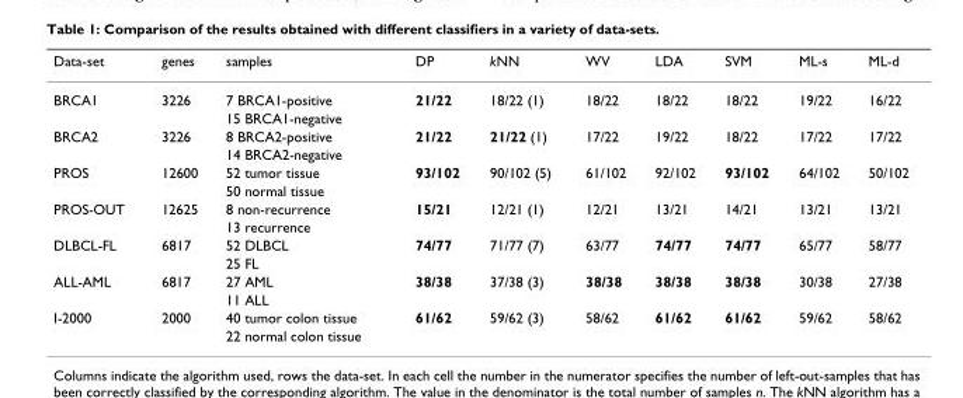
<table><thead><tr><td>Data-set</td><td>genes</td><td>samples</td><td>DP</td><td>kNN</td><td>WV</td><td>LDA</td><td>SVM</td><td>ML-s</td><td>ML-d</td></tr></thead><tbody><tr><td rowspan="2">BRCA1</td><td>3226</td><td>7 BRCA1-positive</td><td>21/22</td><td>18/22 (1)</td><td>18/22</td><td>18/22</td><td>18/22</td><td>19/22</td><td>16/22</td></tr><tr><td></td><td>15 BRCA1-negative</td><td></td><td></td><td></td><td></td><td></td><td></td><td></td></tr><tr><td rowspan="2">BRCA2</td><td>3226</td><td>8 BRCA2-positive</td><td>21/22</td><td>21/22 (1)</td><td>17/22</td><td>19/22</td><td>18/22</td><td>17/22</td><td>17/22</td></tr><tr><td></td><td>14 BRCA2-negative</td><td></td><td></td><td></td><td></td><td></td><td></td><td></td></tr><tr><td rowspan="2">PROS</td><td>12600</td><td>52 tumor tissue</td><td>93/102</td><td>90/102 (5)</td><td>61/102</td><td>92/102</td><td>93/102</td><td>64/102</td><td>50/102</td></tr><tr><td></td><td>50 normal tissue</td><td></td><td></td><td></td><td></td><td></td><td></td><td></td></tr><tr><td rowspan="2">PROS-OUT</td><td>12625</td><td>8 non-recurrence</td><td>15/21</td><td>12/21 (1)</td><td>12/21</td><td>13/21</td><td>14/21</td><td>13/21</td><td>13/21</td></tr><tr><td></td><td>13 recurrence</td><td></td><td></td><td></td><td></td><td></td><td></td><td></td></tr><tr><td rowspan="2">DLBCL-FL</td><td>6817</td><td>52 DLBCL</td><td>74/77</td><td>71/77 (7)</td><td>63/77</td><td>74/77</td><td>74/77</td><td>65/77</td><td>58/77</td></tr><tr><td></td><td>25 FL</td><td></td><td></td><td></td><td></td><td></td><td></td><td></td></tr><tr><td rowspan="2">ALL-AML</td><td>6817</td><td>27 AML</td><td>38/38</td><td>37/38 (3)</td><td>38/38</td><td>38/38</td><td>38/38</td><td>30/38</td><td>27/38</td></tr><tr><td></td><td>11 ALL</td><td></td><td></td><td></td><td></td><td></td><td></td><td></td></tr><tr><td rowspan="2">I-2000</td><td>2000</td><td>40 tumor colon tissue</td><td>61/62</td><td>59/62 (3)</td><td>58/62</td><td>61/62</td><td>61/62</td><td>59/62</td><td>58/62</td></tr><tr><td></td><td>22 normal colon tissue</td><td></td><td></td><td></td><td></td><td></td><td></td><td></td></tr></tbody></table>